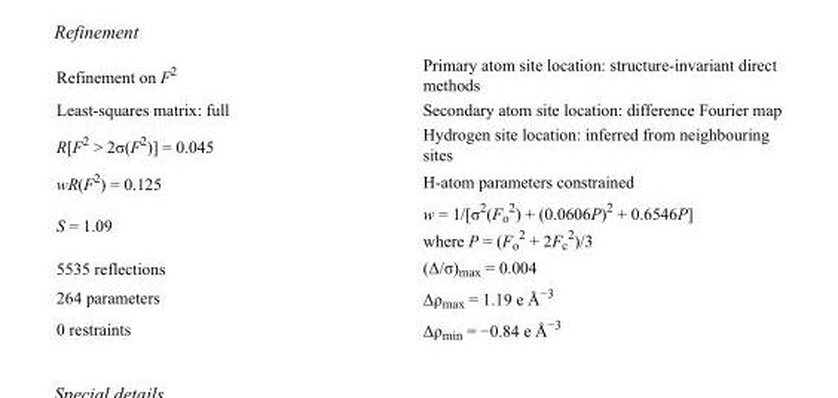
<table><tbody><tr><td>Refinement on F<sup>2</sup></td><td>Primary atom site location: structure-invariant direct methods</td></tr><tr><td>Least-squares matrix: full</td><td>Secondary atom site location: difference Fourier map</td></tr><tr><td>R[F<sup>2</sup> &gt; 2σ(F<sup>2</sup>)] = 0.045</td><td>Hydrogen site location: inferred from neighbouring sites</td></tr><tr><td>wR(F<sup>2</sup>) = 0.125</td><td>H-atom parameters constrained</td></tr><tr><td>S = 1.09</td><td>w = 1/[σ<sup>2</sup>(F<sub>o</sub> <sup>2</sup>) + (0.0606P)<sup>2</sup> + 0.6546P] where P = (F<sub>o</sub> <sup>2</sup> + 2F<sub>c</sub> <sup>2</sup>)/3</td></tr><tr><td>5535 reflections</td><td>(Δ/σ)<sub>max</sub> = 0.004</td></tr><tr><td>264 parameters</td><td>Δρ<sub>max</sub> = 1.19 e Å<sup>−3</sup></td></tr><tr><td>0 restraints</td><td>Δρ<sub>min</sub> = −0.84 e Å<sup>−3</sup></td></tr></tbody></table>